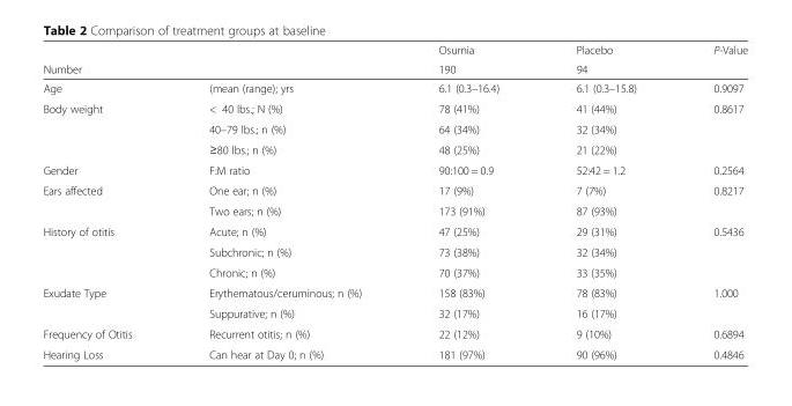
<table><thead><tr><td rowspan="2">Number</td><td rowspan="2"></td><td rowspan="2">Osurnia 190</td><td rowspan="2">Placebo 94</td><td rowspan="2">P-Value</td></tr><tr></tr></thead><tbody><tr><td>Age</td><td>(mean (range); yrs</td><td>6.1 (0.3–16.4)</td><td>6.1 (0.3–15.8)</td><td>0.9097</td></tr><tr><td rowspan="3">Body weight</td><td>&lt; 40 lbs.; N (%)</td><td>78 (41%)</td><td>41 (44%)</td><td rowspan="3">0.8617</td></tr><tr><td>40–79 lbs.; n (%)</td><td>64 (34%)</td><td>32 (34%)</td></tr><tr><td>≥80 lbs.; n (%)</td><td>48 (25%)</td><td>21 (22%)</td></tr><tr><td>Gender</td><td>F:M ratio</td><td>90:100 = 0.9</td><td>52:42 = 1.2</td><td>0.2564</td></tr><tr><td rowspan="2">Ears affected</td><td>One ear; n (%)</td><td>17 (9%)</td><td>7 (7%)</td><td rowspan="2">0.8217</td></tr><tr><td>Two ears; n (%)</td><td>173 (91%)</td><td>87 (93%)</td></tr><tr><td rowspan="3">History of otitis</td><td>Acute; n (%)</td><td>47 (25%)</td><td>29 (31%)</td><td rowspan="3">0.5436</td></tr><tr><td>Subchronic; n (%)</td><td>73 (38%)</td><td>32 (34%)</td></tr><tr><td>Chronic; n (%)</td><td>70 (37%)</td><td>33 (35%)</td></tr><tr><td rowspan="2">Exudate Type</td><td>Erythematous/ceruminous; n (%)</td><td>158 (83%)</td><td>78 (83%)</td><td rowspan="2">1.000</td></tr><tr><td>Suppurative; n (%)</td><td>32 (17%)</td><td>16 (17%)</td></tr><tr><td>Frequency of Otitis</td><td>Recurrent otitis; n (%)</td><td>22 (12%)</td><td>9 (10%)</td><td>0.6894</td></tr><tr><td>Hearing Loss</td><td>Can hear at Day 0; n (%)</td><td>181 (97%)</td><td>90 (96%)</td><td>0.4846</td></tr></tbody></table>